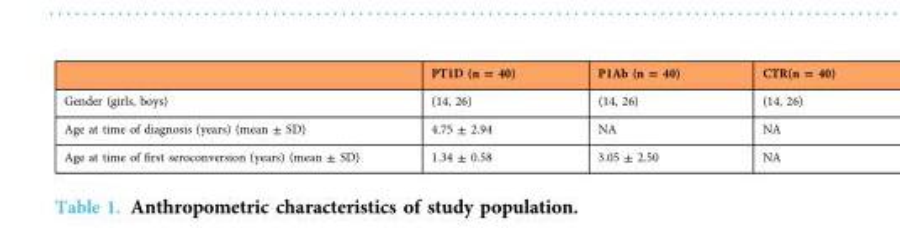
<table><thead><tr><td></td><td>PT1D (n = 40)</td><td>P1Ab (n = 40)</td><td>CTR(n = 40)</td></tr></thead><tbody><tr><td>Gender (girls, boys)</td><td>(14, 26)</td><td>(14, 26)</td><td>(14, 26)</td></tr><tr><td>Age at time of diagnosis (years) (mean ± SD)</td><td>4.75 ± 2.94</td><td>NA</td><td>NA</td></tr><tr><td>Age at time of first seroconversion (years) (mean ± SD)</td><td>1.34 ± 0.58</td><td>3.05 ± 2.50</td><td>NA</td></tr></tbody></table>